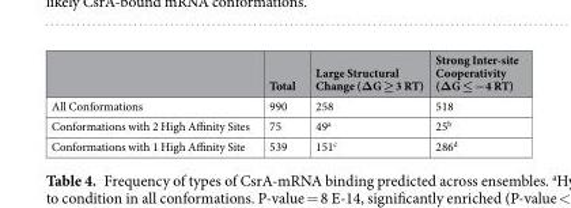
<table><thead><tr><td></td><td>Total</td><td>Large Structural Change (ΔG ≥ 3 RT)</td><td>Strong Inter-site Cooperativity (ΔG ≤ −4 RT)</td></tr></thead><tbody><tr><td>All Conformations</td><td>990</td><td>258</td><td>518</td></tr><tr><td>Conformations with 2 High Affinity Sites</td><td>75</td><td>49<sup>a</sup></td><td>25<sup>b</sup></td></tr><tr><td>Conformations with 1 High Affinity Site</td><td>539</td><td>151<sup>c</sup></td><td>286<sup>d</sup></td></tr></tbody></table>